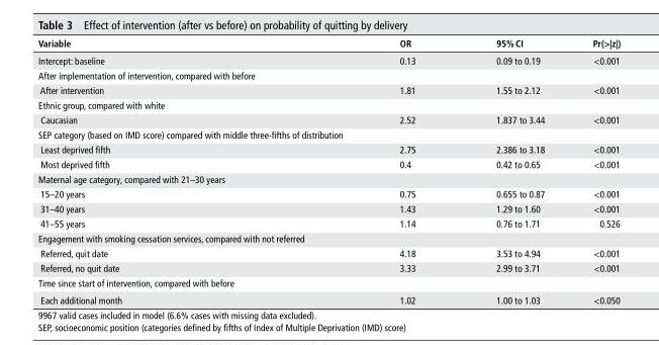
<table><thead><tr><td>Variable</td><td>Or</td><td>95% cI</td><td>Pr(&gt;|z|)</td></tr></thead><tbody><tr><td>Intercept: baseline</td><td>0.13</td><td>0.09 to 0.19</td><td>&lt;0.001</td></tr><tr><td colspan="4">After implementation of intervention, compared with before</td></tr><tr><td>After intervention</td><td>1.81</td><td>1.55 to 2.12</td><td>&lt;0.001</td></tr><tr><td colspan="4">Ethnic group, compared with white</td></tr><tr><td>Caucasian</td><td>2.52</td><td>1.837 to 3.44</td><td>&lt;0.001</td></tr><tr><td colspan="4">SEP category (based on IMD score) compared with middle three-fifths of distribution</td></tr><tr><td>Least deprived fifth</td><td>2.75</td><td>2.386 to 3.18</td><td>&lt;0.001</td></tr><tr><td>Most deprived fifth</td><td>0.4</td><td>0.42 to 0.65</td><td>&lt;0.001</td></tr><tr><td colspan="4">Maternal age category, compared with 21–30 years</td></tr><tr><td>15–20 years</td><td>0.75</td><td>0.655 to 0.87</td><td>&lt;0.001</td></tr><tr><td>31–40 years</td><td>1.43</td><td>1.29 to 1.60</td><td>&lt;0.001</td></tr><tr><td>41–55 years</td><td>1.14</td><td>0.76 to 1.71</td><td>0.526</td></tr><tr><td colspan="4">Engagement with smoking cessation services, compared with not referred</td></tr><tr><td>Referred, quit date</td><td>4.18</td><td>3.53 to 4.94</td><td>&lt;0.001</td></tr><tr><td>Referred, no quit date</td><td>3.33</td><td>2.99 to 3.71</td><td>&lt;0.001</td></tr><tr><td colspan="4">Time since start of intervention, compared with before</td></tr><tr><td>Each additional month</td><td>1.02</td><td>1.00 to 1.03</td><td>&lt;0.050</td></tr></tbody></table>